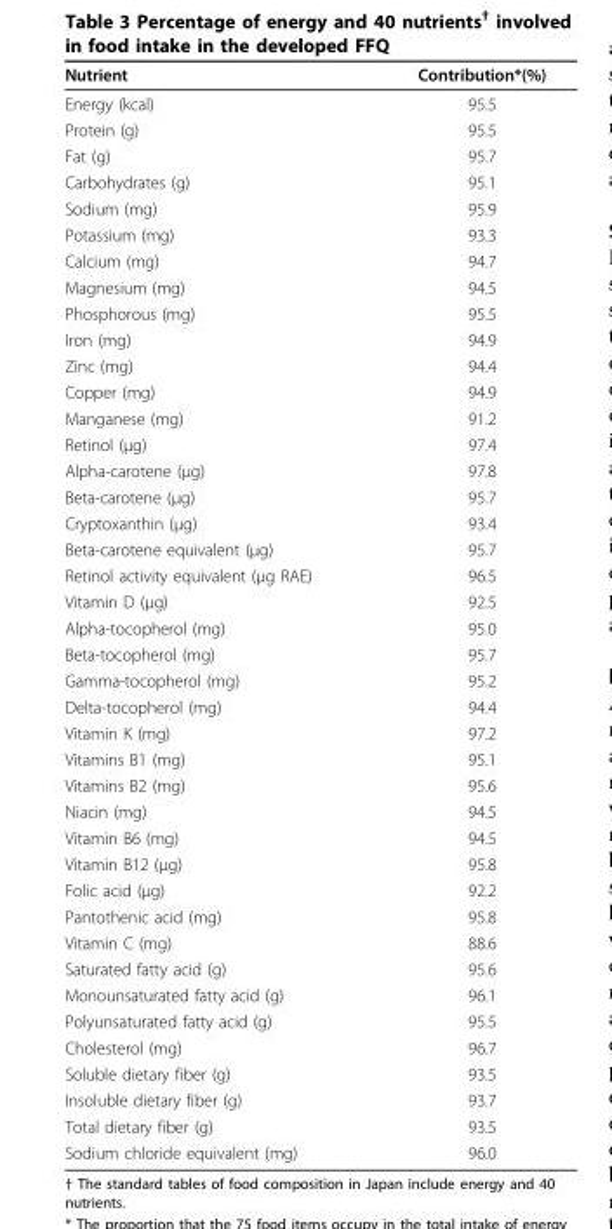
<table><thead><tr><td>Nutrient</td><td>Contribution*(%)</td></tr></thead><tbody><tr><td>Energy (kcal)</td><td>95.5</td></tr><tr><td>Protein (g)</td><td>95.5</td></tr><tr><td>Fat (g)</td><td>95.7</td></tr><tr><td>Carbohydrates (g)</td><td>95.1</td></tr><tr><td>Sodium (mg)</td><td>95.9</td></tr><tr><td>Potassium (mg)</td><td>93.3</td></tr><tr><td>Calcium (mg)</td><td>94.7</td></tr><tr><td>Magnesium (mg)</td><td>94.5</td></tr><tr><td>Phosphorous (mg)</td><td>95.5</td></tr><tr><td>Iron (mg)</td><td>94.9</td></tr><tr><td>Zinc (mg)</td><td>94.4</td></tr><tr><td>Copper (mg)</td><td>94.9</td></tr><tr><td>Manganese (mg)</td><td>91.2</td></tr><tr><td>Retinol (μg)</td><td>97.4</td></tr><tr><td>Alpha-carotene (μg)</td><td>97.8</td></tr><tr><td>Beta-carotene (μg)</td><td>95.7</td></tr><tr><td>Cryptoxanthin (μg)</td><td>93.4</td></tr><tr><td>Beta-carotene equivalent (μg)</td><td>95.7</td></tr><tr><td>Retinol activity equivalent (μg RAE)</td><td>96.5</td></tr><tr><td>Vitamin D (μg)</td><td>92.5</td></tr><tr><td>Alpha-tocopherol (mg)</td><td>95.0</td></tr><tr><td>Beta-tocopherol (mg)</td><td>95.7</td></tr><tr><td>Gamma-tocopherol (mg)</td><td>95.2</td></tr><tr><td>Delta-tocopherol (mg)</td><td>94.4</td></tr><tr><td>Vitamin K (mg)</td><td>97.2</td></tr><tr><td>Vitamins B1 (mg)</td><td>95.1</td></tr><tr><td>Vitamins B2 (mg)</td><td>95.6</td></tr><tr><td>Niacin (mg)</td><td>94.5</td></tr><tr><td>Vitamin B6 (mg)</td><td>94.5</td></tr><tr><td>Vitamin B12 (μg)</td><td>95.8</td></tr><tr><td>Folic acid (μg)</td><td>92.2</td></tr><tr><td>Pantothenic acid (mg)</td><td>95.8</td></tr><tr><td>Vitamin C (mg)</td><td>88.6</td></tr><tr><td>Saturated fatty acid (g)</td><td>95.6</td></tr><tr><td>Monounsaturated fatty acid (g)</td><td>96.1</td></tr><tr><td>Polyunsaturated fatty acid (g)</td><td>95.5</td></tr><tr><td>Cholesterol (mg)</td><td>96.7</td></tr><tr><td>Soluble dietary fiber (g)</td><td>93.5</td></tr><tr><td>Insoluble dietary fiber (g)</td><td>93.7</td></tr><tr><td>Total dietary fiber (g)</td><td>93.5</td></tr><tr><td>Sodium chloride equivalent (mg)</td><td>96.0</td></tr></tbody></table>